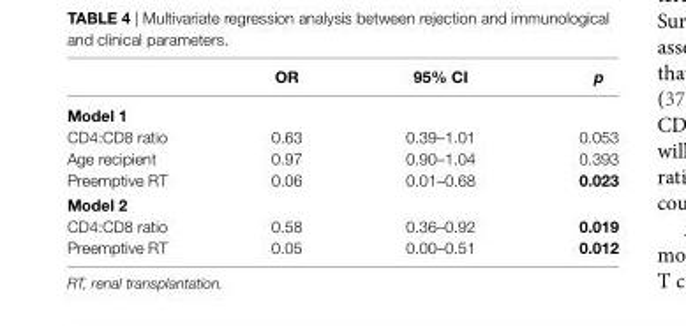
<table><thead><tr><td></td><td>Or</td><td>95% ci</td><td>p</td></tr></thead><tbody><tr><td colspan="4">Model 1</td></tr><tr><td>CD4:CD8 ratio</td><td>0.63</td><td>0.39–1.01</td><td>0.053</td></tr><tr><td>Age recipient</td><td>0.97</td><td>0.90–1.04</td><td>0.393</td></tr><tr><td>Preemptive RT</td><td>0.06</td><td>0.01–0.68</td><td>0.023</td></tr><tr><td colspan="4">Model 2</td></tr><tr><td>CD4:CD8 ratio</td><td>0.58</td><td>0.36–0.92</td><td>0.019</td></tr><tr><td>Preemptive RT</td><td>0.05</td><td>0.00–0.51</td><td>0.012</td></tr></tbody></table>